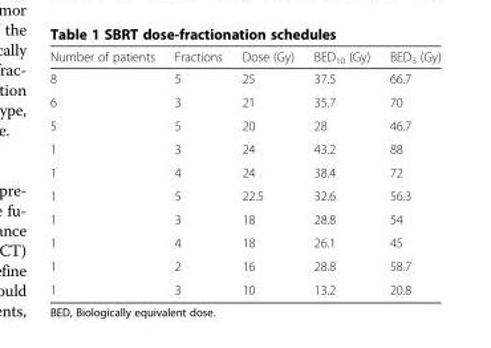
<table><thead><tr><td>Number of patients</td><td>Fractions</td><td>Dose (Gy)</td><td>BED<sub>10</sub> (Gy)</td><td>BED<sub>3</sub> (Gy)</td></tr></thead><tbody><tr><td>8</td><td>5</td><td>25</td><td>37.5</td><td>66.7</td></tr><tr><td>6</td><td>3</td><td>21</td><td>35.7</td><td>70</td></tr><tr><td>5</td><td>5</td><td>20</td><td>28</td><td>46.7</td></tr><tr><td>1</td><td>3</td><td>24</td><td>43.2</td><td>88</td></tr><tr><td>1</td><td>4</td><td>24</td><td>38.4</td><td>72</td></tr><tr><td>1</td><td>5</td><td>22.5</td><td>32.6</td><td>56.3</td></tr><tr><td>1</td><td>3</td><td>18</td><td>28.8</td><td>54</td></tr><tr><td>1</td><td>4</td><td>18</td><td>26.1</td><td>45</td></tr><tr><td>1</td><td>2</td><td>16</td><td>28.8</td><td>58.7</td></tr><tr><td>1</td><td>3</td><td>10</td><td>13.2</td><td>20.8</td></tr></tbody></table>